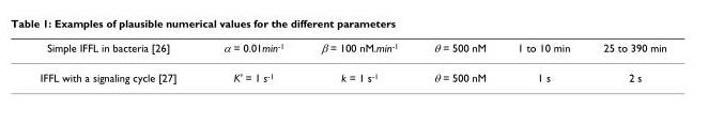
<table><thead><tr><td>Simple IFFL in bacteria [26]</td><td>α = 0.01min<sup>-1</sup></td><td>β = 100 nM.min<sup>-1</sup></td><td>θ = 500 nM</td><td>1 to 10 min</td><td>25 to 390 min</td></tr></thead><tbody><tr><td>IFFL with a signaling cycle [27]</td><td>K&#x27; = 1 s<sup>-1</sup></td><td>k = 1 s<sup>-1</sup></td><td>θ = 500 nM</td><td>1 s</td><td>2 s</td></tr></tbody></table>